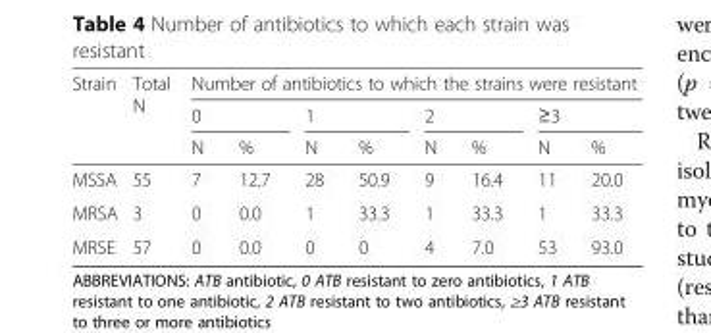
<table><thead><tr><td rowspan="3">Strain</td><td rowspan="3">Total N</td><td colspan="8">Number of antibiotics to which the strains were resistant</td></tr><tr><td colspan="2">0</td><td colspan="2">1</td><td colspan="2">2</td><td colspan="2">≥3</td></tr><tr><td>N</td><td>%</td><td>N</td><td>%</td><td>N</td><td>%</td><td>N</td><td>%</td></tr></thead><tbody><tr><td>MSSA</td><td>55</td><td>7</td><td>12.7</td><td>28</td><td>50.9</td><td>9</td><td>16.4</td><td>11</td><td>20.0</td></tr><tr><td>MRSA</td><td>3</td><td>0</td><td>0.0</td><td>1</td><td>33.3</td><td>1</td><td>33.3</td><td>1</td><td>33.3</td></tr><tr><td>MRSE</td><td>57</td><td>0</td><td>0.0</td><td>0</td><td>0</td><td>4</td><td>7.0</td><td>53</td><td>93.0</td></tr></tbody></table>